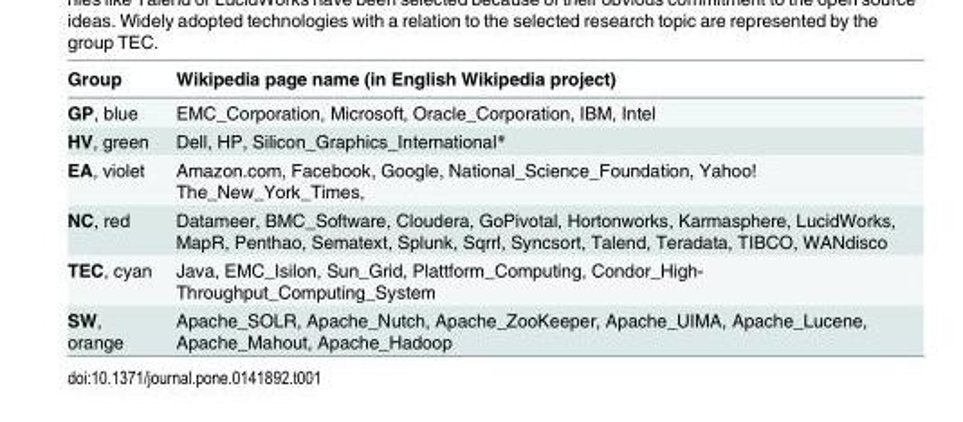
<table><thead><tr><td>Group</td><td>Wikipedia page name (in English Wikipedia project)</td></tr></thead><tbody><tr><td>GP, blue</td><td>EMC_Corporation, Microsoft, Oracle_Corporation, IBM, Intel</td></tr><tr><td>HV, green</td><td>Dell, HP, Silicon_Graphics_International*</td></tr><tr><td>EA, violet</td><td>Amazon.com, Facebook, Google, National_Science_Foundation, Yahoo! The_New_York_Times,</td></tr><tr><td>NC, red</td><td>Datameer, BMC_Software, Cloudera, GoPivotal, Hortonworks, Karmasphere, LucidWorks, MapR, Penthao, Sematext, Splunk, Sqrrl, Syncsort, Talend, Teradata, TIBCO, WANdisco</td></tr><tr><td>TEC, cyan</td><td>Java, EMC_Isilon, Sun_Grid, Plattform_Computing, Condor_High- Throughput_Computing_System</td></tr><tr><td>SW, orange</td><td>Apache_SOLR, Apache_Nutch, Apache_ZooKeeper, Apache_UIMA, Apache_Lucene, Apache_Mahout, Apache_Hadoop</td></tr></tbody></table>